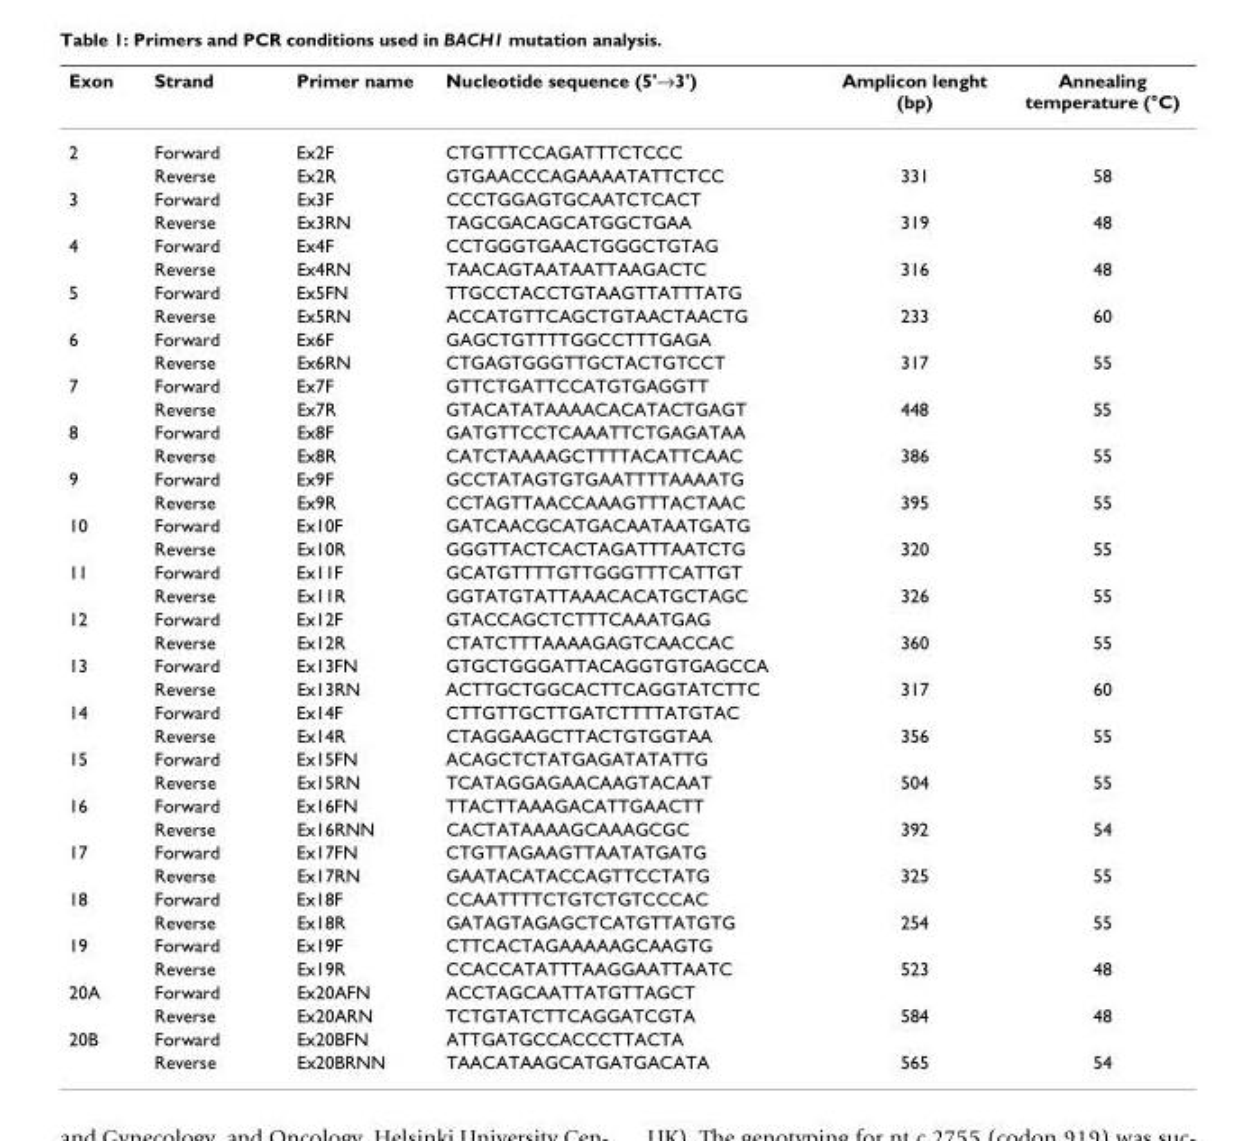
<table><thead><tr><td>Exon</td><td>Strand</td><td>Primer name</td><td>Nucleotide sequence (5&#x27;→3&#x27;)</td><td>Amplicon lenght (bp)</td><td>Annealing temperature (°C)</td></tr></thead><tbody><tr><td rowspan="2">2</td><td>Forward</td><td>Ex2F</td><td>CTGTTTCCAGATTTCTCCC</td><td></td><td></td></tr><tr><td>Reverse</td><td>Ex2R</td><td>GTGAACCCAGAAAATATTCTCC</td><td>331</td><td>58</td></tr><tr><td rowspan="2">3</td><td>Forward</td><td>Ex3F</td><td>CCCTGGAGTGCAATCTCACT</td><td></td><td></td></tr><tr><td>Reverse</td><td>Ex3RN</td><td>TAGCGACAGCATGGCTGAA</td><td>319</td><td>48</td></tr><tr><td rowspan="2">4</td><td>Forward</td><td>Ex4F</td><td>CCTGGGTGAACTGGGCTGTAG</td><td></td><td></td></tr><tr><td>Reverse</td><td>Ex4RN</td><td>TAACAGTAATAATTAAGACTC</td><td>316</td><td>48</td></tr><tr><td rowspan="2">5</td><td>Forward</td><td>Ex5FN</td><td>TTGCCTACCTGTAAGTTATTTATG</td><td></td><td></td></tr><tr><td>Reverse</td><td>Ex5RN</td><td>ACCATGTTCAGCTGTAACTAACTG</td><td>233</td><td>60</td></tr><tr><td rowspan="2">6</td><td>Forward</td><td>Ex6F</td><td>GAGCTGTTTTGGCCTTTGAGA</td><td></td><td></td></tr><tr><td>Reverse</td><td>Ex6RN</td><td>CTGAGTGGGTTGCTACTGTCCT</td><td>317</td><td>55</td></tr><tr><td rowspan="2">7</td><td>Forward</td><td>Ex7F</td><td>GTTCTGATTCCATGTGAGGTT</td><td></td><td></td></tr><tr><td>Reverse</td><td>Ex7R</td><td>GTACATATAAAACACATACTGAGT</td><td>448</td><td>55</td></tr><tr><td rowspan="2">8</td><td>Forward</td><td>Ex8F</td><td>GATGTTCCTCAAATTCTGAGATAA</td><td></td><td></td></tr><tr><td>Reverse</td><td>Ex8R</td><td>CATCTAAAAGCTTTTACATTCAAC</td><td>386</td><td>55</td></tr><tr><td rowspan="2">9</td><td>Forward</td><td>Ex9F</td><td>GCCTATAGTGTGAATTTTAAAATG</td><td></td><td></td></tr><tr><td>Reverse</td><td>Ex9R</td><td>CCTAGTTAACCAAAGTTTACTAAC</td><td>395</td><td>55</td></tr><tr><td rowspan="2">10</td><td>Forward</td><td>Ex10F</td><td>GATCAACGCATGACAATAATGATG</td><td></td><td></td></tr><tr><td>Reverse</td><td>Ex10R</td><td>GGGTTACTCACTAGATTTAATCTG</td><td>320</td><td>55</td></tr><tr><td rowspan="2">11</td><td>Forward</td><td>Ex11F</td><td>GCATGTTTTGTTGGGTTTCATTGT</td><td></td><td></td></tr><tr><td>Reverse</td><td>Ex11R</td><td>GGTATGTATTAAACACATGCTAGC</td><td>326</td><td>55</td></tr><tr><td rowspan="2">12</td><td>Forward</td><td>Ex12F</td><td>GTACCAGCTCTTTCAAATGAG</td><td></td><td></td></tr><tr><td>Reverse</td><td>Ex12R</td><td>CTATCTTTAAAAGAGTCAACCAC</td><td>360</td><td>55</td></tr><tr><td rowspan="2">13</td><td>Forward</td><td>Ex13FN</td><td>GTGCTGGGATTACAGGTGTGAGCCA</td><td></td><td></td></tr><tr><td>Reverse</td><td>Ex13RN</td><td>ACTTGCTGGCACTTCAGGTATCTTC</td><td>317</td><td>60</td></tr><tr><td rowspan="2">14</td><td>Forward</td><td>Ex14F</td><td>CTTGTTGCTTGATCTTTTATGTAC</td><td></td><td></td></tr><tr><td>Reverse</td><td>Ex14R</td><td>CTAGGAAGCTTACTGTGGTAA</td><td>356</td><td>55</td></tr><tr><td rowspan="2">15</td><td>Forward</td><td>Ex15FN</td><td>ACAGCTCTATGAGATATATTG</td><td></td><td></td></tr><tr><td>Reverse</td><td>Ex15RN</td><td>TCATAGGAGAACAAGTACAAT</td><td>504</td><td>55</td></tr><tr><td rowspan="2">16</td><td>Forward</td><td>Ex16FN</td><td>TTACTTAAAGACATTGAACTT</td><td></td><td></td></tr><tr><td>Reverse</td><td>Ex16RNN</td><td>CACTATAAAAGCAAAGCGC</td><td>392</td><td>54</td></tr><tr><td rowspan="2">17</td><td>Forward</td><td>Ex17FN</td><td>CTGTTAGAAGTTAATATGATG</td><td></td><td></td></tr><tr><td>Reverse</td><td>Ex17RN</td><td>GAATACATACCAGTTCCTATG</td><td>325</td><td>55</td></tr><tr><td rowspan="2">18</td><td>Forward</td><td>Ex18F</td><td>CCAATTTTCTGTCTGTCCCAC</td><td></td><td></td></tr><tr><td>Reverse</td><td>Ex18R</td><td>GATAGTAGAGCTCATGTTATGTG</td><td>254</td><td>55</td></tr><tr><td rowspan="2">19</td><td>Forward</td><td>Ex19F</td><td>CTTCACTAGAAAAAGCAAGTG</td><td></td><td></td></tr><tr><td>Reverse</td><td>Ex19R</td><td>CCACCATATTTAAGGAATTAATC</td><td>523</td><td>48</td></tr><tr><td rowspan="2">20A</td><td>Forward</td><td>Ex20AFN</td><td>ACCTAGCAATTATGTTAGCT</td><td></td><td></td></tr><tr><td>Reverse</td><td>Ex20ARN</td><td>TCTGTATCTTCAGGATCGTA</td><td>584</td><td>48</td></tr><tr><td rowspan="2">20B</td><td>Forward</td><td>Ex20BFN</td><td>ATTGATGCCACCCTTACTA</td><td></td><td></td></tr><tr><td>Reverse</td><td>Ex20BRNN</td><td>TAACATAAGCATGATGACATA</td><td>565</td><td>54</td></tr></tbody></table>